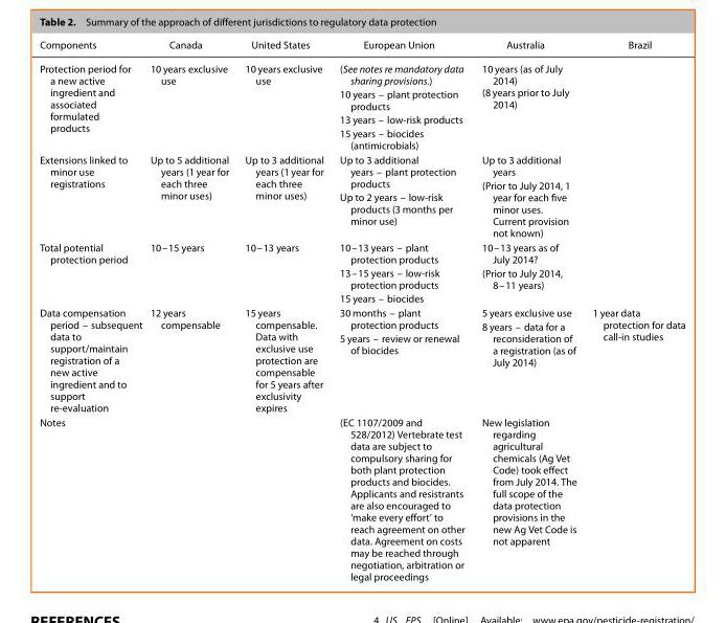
<table><thead><tr><td>Components</td><td>Canada</td><td>United States</td><td>European Union</td><td>Australia</td><td>Brazil</td></tr></thead><tbody><tr><td>Protection period for a new active ingredient and associated formulated products</td><td>10 years exclusive use</td><td>10 years exclusive use</td><td>(See notes re mandatory data sharing provisions.) 10 years – plant protection products 13 years – low-risk products 15 years – biocides (antimicrobials)</td><td>10 years (as of July 2014) (8 years prior to July 2014)</td><td></td></tr><tr><td>Extensions linked to minor use registrations</td><td>Up to 5 additional years (1 year for each three minor uses)</td><td>Up to 3 additional years (1 year for each three minor uses)</td><td>Up to 3 additional years – plant protection products Up to 2 years – low-risk products (3 months per minor use)</td><td>Up to 3 additional years (Prior to July 2014, 1 year for each five minor uses. Current provision not known)</td><td></td></tr><tr><td>Total potential protection period</td><td>10–15 years</td><td>10–13 years</td><td>10–13 years – plant protection products 13–15 years – low-risk protection products 15 years – biocides</td><td>10–13 years as of July 2014? (Prior to July 2014, 8–11 years)</td><td></td></tr><tr><td>Data compensation period – subsequent data to support/maintain registration of a new active ingredient and to support re-evaluation</td><td>12 years compensable</td><td>15 years compensable. Data with exclusive use protection are compensable for 5 years after exclusivity expires</td><td>30 months – plant protection products 5 years – review or renewal of biocides</td><td>5 years exclusive use 8 years – data for a reconsideration of a registration (as of July 2014)</td><td>1 year data protection for data call-in studies</td></tr><tr><td>Notes</td><td></td><td></td><td>(EC 1107/2009 and 528/2012) Vertebrate test data are subject to compulsory sharing for both plant protection products and biocides. Applicants and resistrants are also encouraged to ‘make every effort’ to reach agreement on other data. Agreement on costs may be reached through negotiation, arbitration or legal proceedings</td><td>New legislation regarding agricultural chemicals (Ag Vet Code) took effect from July 2014. The full scope of the data protection provisions in the new Ag Vet Code is not apparent</td><td></td></tr></tbody></table>